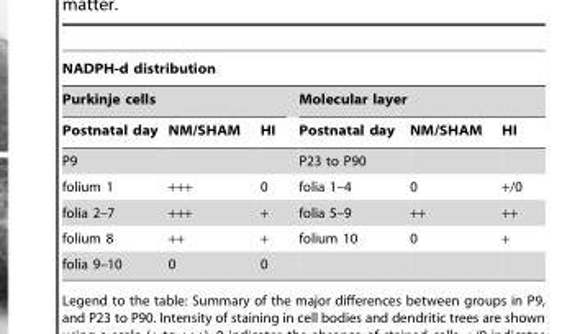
<table><thead><tr><td colspan="6">NADPH-d distribution</td></tr><tr><td colspan="3">Purkinje cells</td><td colspan="3">Molecular layer</td></tr><tr><td>Postnatal day</td><td>NM/SHAM</td><td>HI</td><td>Postnatal day</td><td>NM/SHAM</td><td>HI</td></tr></thead><tbody><tr><td>P9</td><td></td><td></td><td>P23 to P90</td><td></td><td></td></tr><tr><td>folium 1</td><td>+++</td><td>0</td><td>folia 1–4</td><td>0</td><td>+/0</td></tr><tr><td>folia 2–7</td><td>+++</td><td>+</td><td>folia 5–9</td><td>++</td><td>++</td></tr><tr><td>folium 8</td><td>++</td><td>+</td><td>folium 10</td><td>0</td><td>+</td></tr><tr><td>folia 9–10</td><td>0</td><td>0</td><td></td><td></td><td></td></tr></tbody></table>